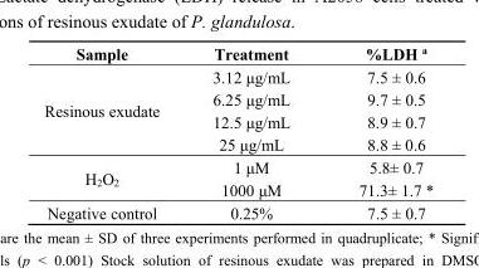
<table><thead><tr><td>Sample</td><td>Treatment</td><td>%LDH <sup>a</sup></td></tr></thead><tbody><tr><td rowspan="4">Resinous exudate</td><td>3.12 μg/mL</td><td>7.5 ± 0.6</td></tr><tr><td>6.25 μg/mL</td><td>9.7 ± 0.5</td></tr><tr><td>12.5 μg/mL</td><td>8.9 ± 0.7</td></tr><tr><td>25 μg/mL</td><td>8.8 ± 0.6</td></tr><tr><td rowspan="2">H<sub>2</sub>O<sub>2</sub></td><td>1 μM</td><td>5.8± 0.7</td></tr><tr><td>1000 μM</td><td>71.3± 1.7 *</td></tr><tr><td>Negative control</td><td>0.25%</td><td>7.5 ± 0.7</td></tr></tbody></table>